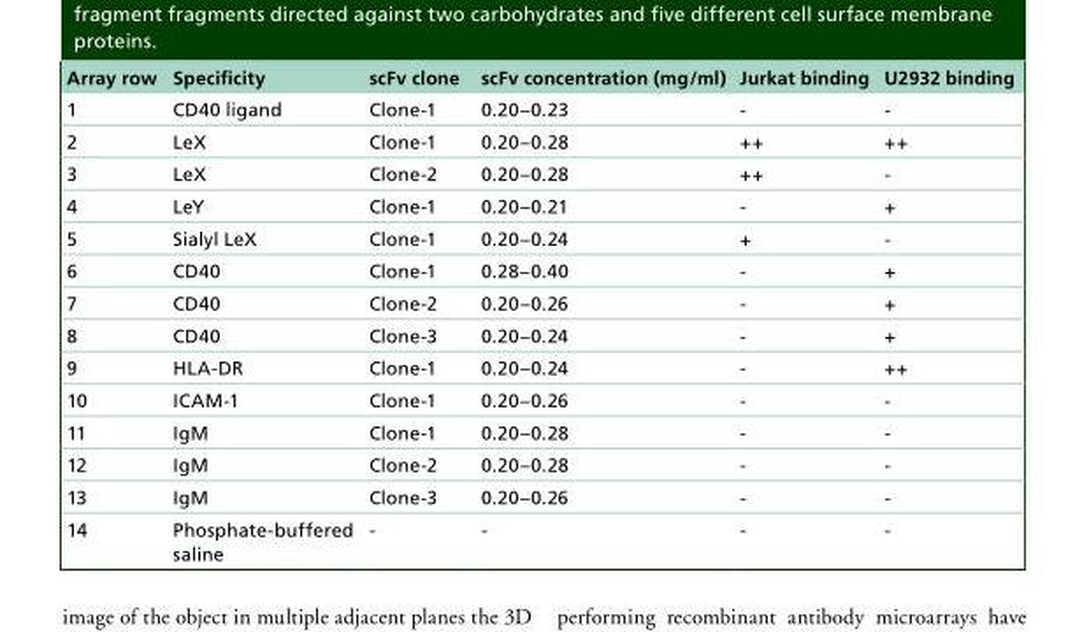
<table><thead><tr><td>Array row</td><td>Specificity</td><td>scFv clone</td><td>scFv concentration (mg/ml)</td><td>Jurkat binding</td><td>U2932 binding</td></tr></thead><tbody><tr><td>1</td><td>CD40 ligand</td><td>Clone-1</td><td>0.20–0.23</td><td>-</td><td>-</td></tr><tr><td>2</td><td>LeX</td><td>Clone-1</td><td>0.20–0.28</td><td>++</td><td>++</td></tr><tr><td>3</td><td>LeX</td><td>Clone-2</td><td>0.20–0.28</td><td>++</td><td>-</td></tr><tr><td>4</td><td>LeY</td><td>Clone-1</td><td>0.20–0.21</td><td>-</td><td>+</td></tr><tr><td>5</td><td>Sialyl LeX</td><td>Clone-1</td><td>0.20–0.24</td><td>+</td><td>-</td></tr><tr><td>6</td><td>CD40</td><td>Clone-1</td><td>0.28–0.40</td><td>-</td><td>+</td></tr><tr><td>7</td><td>CD40</td><td>Clone-2</td><td>0.20–0.26</td><td>-</td><td>+</td></tr><tr><td>8</td><td>CD40</td><td>Clone-3</td><td>0.20–0.24</td><td>-</td><td>+</td></tr><tr><td>9</td><td>HLA-DR</td><td>Clone-1</td><td>0.20–0.24</td><td>-</td><td>++</td></tr><tr><td>10</td><td>ICAM-1</td><td>Clone-1</td><td>0.20–0.26</td><td>-</td><td>-</td></tr><tr><td>11</td><td>IgM</td><td>Clone-1</td><td>0.20–0.28</td><td>-</td><td>-</td></tr><tr><td>12</td><td>IgM</td><td>Clone-2</td><td>0.20–0.28</td><td>-</td><td>-</td></tr><tr><td>13</td><td>IgM</td><td>Clone-3</td><td>0.20–0.26</td><td>-</td><td>-</td></tr><tr><td>14</td><td>Phosphate-buffered saline</td><td>-</td><td>-</td><td>-</td><td>-</td></tr></tbody></table>